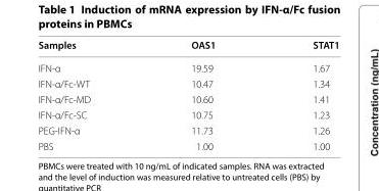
<table><thead><tr><td>Samples</td><td>OAS1</td><td>STAT1</td></tr></thead><tbody><tr><td>IFN-α</td><td>19.59</td><td>1.67</td></tr><tr><td>IFN-α/Fc-WT</td><td>10.47</td><td>1.34</td></tr><tr><td>IFN-α/Fc-MD</td><td>10.60</td><td>1.41</td></tr><tr><td>IFN-α/Fc-SC</td><td>10.75</td><td>1.23</td></tr><tr><td>PEG-IFN-α</td><td>11.73</td><td>1.26</td></tr><tr><td>PBS</td><td>1.00</td><td>1.00</td></tr></tbody></table>